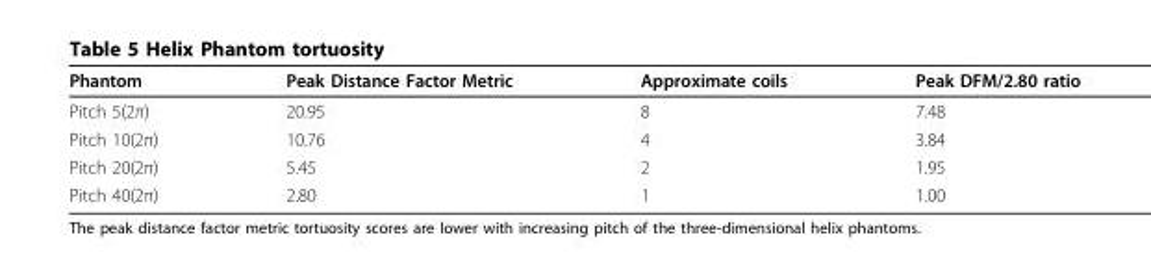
<table><thead><tr><td>Phantom</td><td>Peak Distance Factor Metric</td><td>Approximate coils</td><td>Peak DFM/2.80 ratio</td></tr></thead><tbody><tr><td>Pitch 5(2π)</td><td>20.95</td><td>8</td><td>7.48</td></tr><tr><td>Pitch 10(2π)</td><td>10.76</td><td>4</td><td>3.84</td></tr><tr><td>Pitch 20(2π)</td><td>5.45</td><td>2</td><td>1.95</td></tr><tr><td>Pitch 40(2π)</td><td>2.80</td><td>1</td><td>1.00</td></tr></tbody></table>